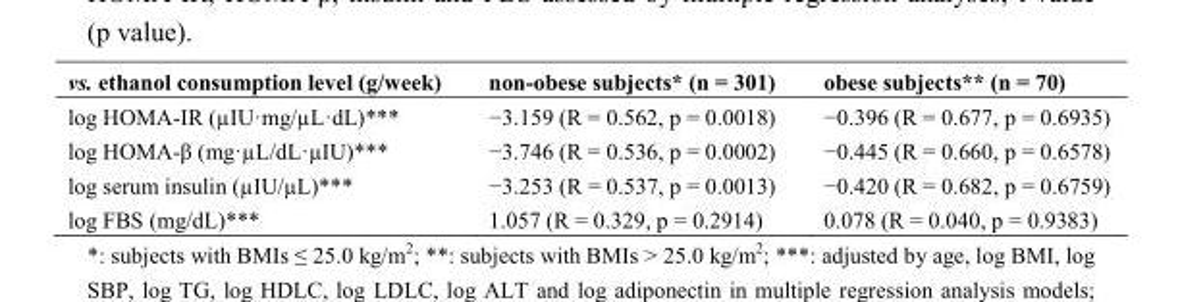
<table><thead><tr><td>vs. ethanol consumption level (g/week)</td><td>non-obese subjects* (n = 301)</td><td>obese subjects** (n = 70)</td></tr></thead><tbody><tr><td>log HOMA-IR (µIU·mg/µL·dL)***</td><td>−3.159 (R = 0.562, p = 0.0018)</td><td>−0.396 (R = 0.677, p = 0.6935)</td></tr><tr><td>log HOMA-β (mg·µL/dL·µIU)***</td><td>−3.746 (R = 0.536, p = 0.0002)</td><td>−0.445 (R = 0.660, p = 0.6578)</td></tr><tr><td>log serum insulin (µIU/µL)***</td><td>−3.253 (R = 0.537, p = 0.0013)</td><td>−0.420 (R = 0.682, p = 0.6759)</td></tr><tr><td>log FBS (mg/dL)***</td><td>1.057 (R = 0.329, p = 0.2914)</td><td>0.078 (R = 0.040, p = 0.9383)</td></tr></tbody></table>